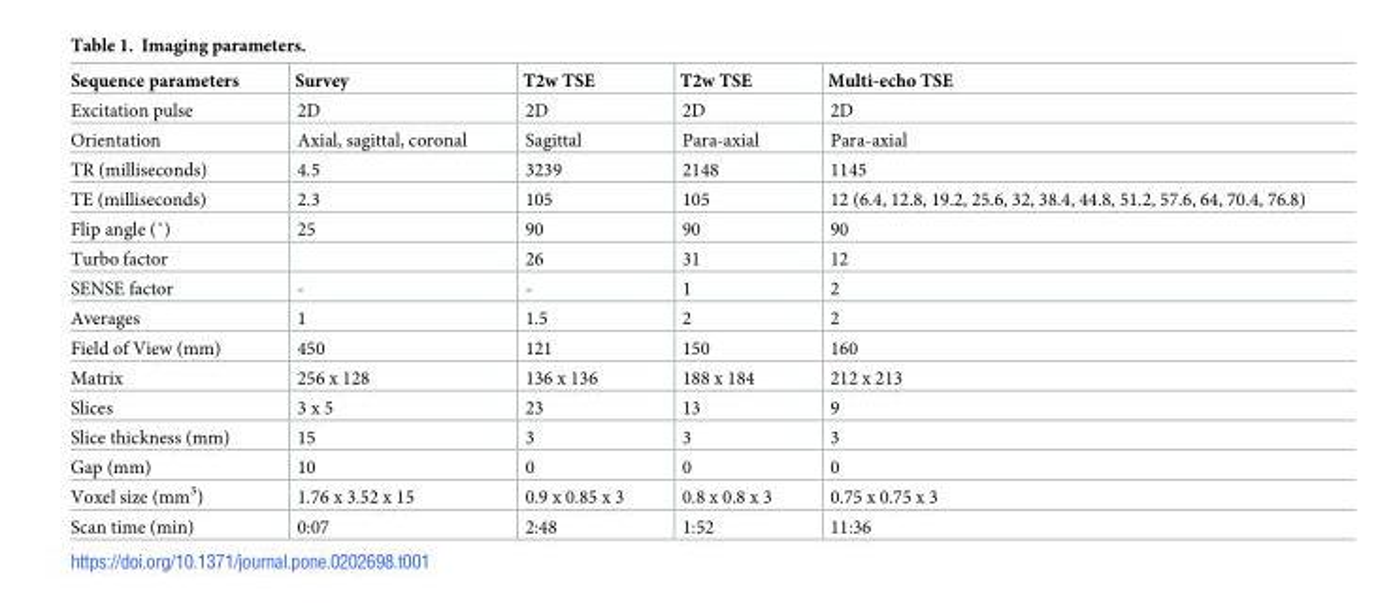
<table><thead><tr><td>Sequence parameters</td><td>Survey</td><td>T2w TSE</td><td>T2w TSE</td><td>Multi-echo TSE</td></tr></thead><tbody><tr><td>Excitation pulse</td><td>2D</td><td>2D</td><td>2D</td><td>2D</td></tr><tr><td>Orientation</td><td>Axial, sagittal, coronal</td><td>Sagittal</td><td>Para-axial</td><td>Para-axial</td></tr><tr><td>TR (milliseconds)</td><td>4.5</td><td>3239</td><td>2148</td><td>1145</td></tr><tr><td>TE (milliseconds)</td><td>2.3</td><td>105</td><td>105</td><td>12 (6.4, 12.8, 19.2, 25.6, 32, 38.4, 44.8, 51.2, 57.6, 64, 70.4, 76.8)</td></tr><tr><td>Flip angle (˚)</td><td>25</td><td>90</td><td>90</td><td>90</td></tr><tr><td>Turbo factor</td><td></td><td>26</td><td>31</td><td>12</td></tr><tr><td>SENSE factor</td><td>-</td><td>-</td><td>1</td><td>2</td></tr><tr><td>Averages</td><td>1</td><td>1.5</td><td>2</td><td>2</td></tr><tr><td>Field of View (mm)</td><td>450</td><td>121</td><td>150</td><td>160</td></tr><tr><td>Matrix</td><td>256 x 128</td><td>136 x 136</td><td>188 x 184</td><td>212 x 213</td></tr><tr><td>Slices</td><td>3 x 5</td><td>23</td><td>13</td><td>9</td></tr><tr><td>Slice thickness (mm)</td><td>15</td><td>3</td><td>3</td><td>3</td></tr><tr><td>Gap (mm)</td><td>10</td><td>0</td><td>0</td><td>0</td></tr><tr><td>Voxel size (mm<sup>3</sup>)</td><td>1.76 x 3.52 x 15</td><td>0.9 x 0.85 x 3</td><td>0.8 x 0.8 x 3</td><td>0.75 x 0.75 x 3</td></tr><tr><td>Scan time (min)</td><td>0:07</td><td>2:48</td><td>1:52</td><td>11:36</td></tr></tbody></table>